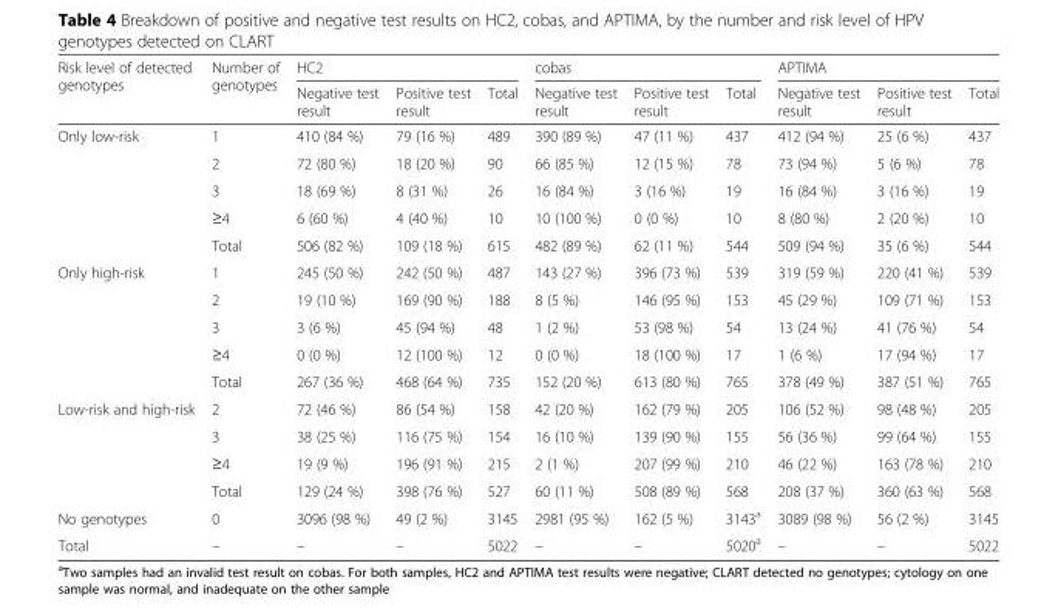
<table><thead><tr><td rowspan="2">Risk level of detected genotypes</td><td rowspan="2">Number of genotypes</td><td colspan="3">HC2</td><td colspan="3">cobas</td><td colspan="3">APTIMA</td></tr><tr><td>Negative test result</td><td>Positive test result</td><td>Total</td><td>Negative test result</td><td>Positive test result</td><td>Total</td><td>Negative test result</td><td>Positive test result</td><td>Total</td></tr></thead><tbody><tr><td rowspan="5">Only low-risk</td><td>1</td><td>410 (84 %)</td><td>79 (16 %)</td><td>489</td><td>390 (89 %)</td><td>47 (11 %)</td><td>437</td><td>412 (94 %)</td><td>25 (6 %)</td><td>437</td></tr><tr><td>2</td><td>72 (80 %)</td><td>18 (20 %)</td><td>90</td><td>66 (85 %)</td><td>12 (15 %)</td><td>78</td><td>73 (94 %)</td><td>5 (6 %)</td><td>78</td></tr><tr><td>3</td><td>18 (69 %)</td><td>8 (31 %)</td><td>26</td><td>16 (84 %)</td><td>3 (16 %)</td><td>19</td><td>16 (84 %)</td><td>3 (16 %)</td><td>19</td></tr><tr><td>≥4</td><td>6 (60 %)</td><td>4 (40 %)</td><td>10</td><td>10 (100 %)</td><td>0 (0 %)</td><td>10</td><td>8 (80 %)</td><td>2 (20 %)</td><td>10</td></tr><tr><td>Total</td><td>506 (82 %)</td><td>109 (18 %)</td><td>615</td><td>482 (89 %)</td><td>62 (11 %)</td><td>544</td><td>509 (94 %)</td><td>35 (6 %)</td><td>544</td></tr><tr><td rowspan="5">Only high-risk</td><td>1</td><td>245 (50 %)</td><td>242 (50 %)</td><td>487</td><td>143 (27 %)</td><td>396 (73 %)</td><td>539</td><td>319 (59 %)</td><td>220 (41 %)</td><td>539</td></tr><tr><td>2</td><td>19 (10 %)</td><td>169 (90 %)</td><td>188</td><td>8 (5 %)</td><td>146 (95 %)</td><td>153</td><td>45 (29 %)</td><td>109 (71 %)</td><td>153</td></tr><tr><td>3</td><td>3 (6 %)</td><td>45 (94 %)</td><td>48</td><td>1 (2 %)</td><td>53 (98 %)</td><td>54</td><td>13 (24 %)</td><td>41 (76 %)</td><td>54</td></tr><tr><td>≥4</td><td>0 (0 %)</td><td>12 (100 %)</td><td>12</td><td>0 (0 %)</td><td>18 (100 %)</td><td>17</td><td>1 (6 %)</td><td>17 (94 %)</td><td>17</td></tr><tr><td>Total</td><td>267 (36 %)</td><td>468 (64 %)</td><td>735</td><td>152 (20 %)</td><td>613 (80 %)</td><td>765</td><td>378 (49 %)</td><td>387 (51 %)</td><td>765</td></tr><tr><td rowspan="4">Low-risk and high-risk</td><td>2</td><td>72 (46 %)</td><td>86 (54 %)</td><td>158</td><td>42 (20 %)</td><td>162 (79 %)</td><td>205</td><td>106 (52 %)</td><td>98 (48 %)</td><td>205</td></tr><tr><td>3</td><td>38 (25 %)</td><td>116 (75 %)</td><td>154</td><td>16 (10 %)</td><td>139 (90 %)</td><td>155</td><td>56 (36 %)</td><td>99 (64 %)</td><td>155</td></tr><tr><td>≥4</td><td>19 (9 %)</td><td>196 (91 %)</td><td>215</td><td>2 (1 %)</td><td>207 (99 %)</td><td>210</td><td>46 (22 %)</td><td>163 (78 %)</td><td>210</td></tr><tr><td>Total</td><td>129 (24 %)</td><td>398 (76 %)</td><td>527</td><td>60 (11 %)</td><td>508 (89 %)</td><td>568</td><td>208 (37 %)</td><td>360 (63 %)</td><td>568</td></tr><tr><td>No genotypes</td><td>0</td><td>3096 (98 %)</td><td>49 (2 %)</td><td>3145</td><td>2981 (95 %)</td><td>162 (5 %)</td><td>3143<sup>a</sup></td><td>3089 (98 %)</td><td>56 (2 %)</td><td>3145</td></tr><tr><td>Total</td><td>–</td><td>–</td><td>–</td><td>5022</td><td>–</td><td>–</td><td>5020<sup>a</sup></td><td>–</td><td>–</td><td>5022</td></tr></tbody></table>